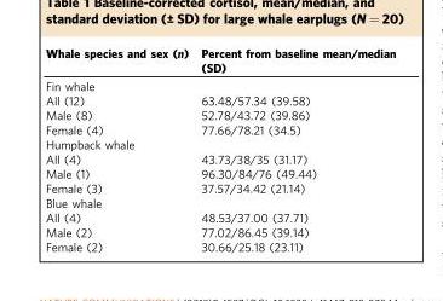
<table><thead><tr><td>Whale species and sex (n)</td><td>Percent from baseline mean/median (SD)</td></tr></thead><tbody><tr><td colspan="2">Fin whale</td></tr><tr><td>All (12)</td><td>63.48/57.34 (39.58)</td></tr><tr><td>Male (8)</td><td>52.78/43.72 (39.86)</td></tr><tr><td>Female (4)</td><td>77.66/78.21 (34.5)</td></tr><tr><td colspan="2">Humpback whale</td></tr><tr><td>All (4)</td><td>43.73/38/35 (31.17)</td></tr><tr><td>Male (1)</td><td>96.30/84/76 (49.44)</td></tr><tr><td>Female (3)</td><td>37.57/34.42 (21.14)</td></tr><tr><td colspan="2">Blue whale</td></tr><tr><td>All (4)</td><td>48.53/37.00 (37.71)</td></tr><tr><td>Male (2)</td><td>77.02/86.45 (39.14)</td></tr><tr><td>Female (2)</td><td>30.66/25.18 (23.11)</td></tr></tbody></table>